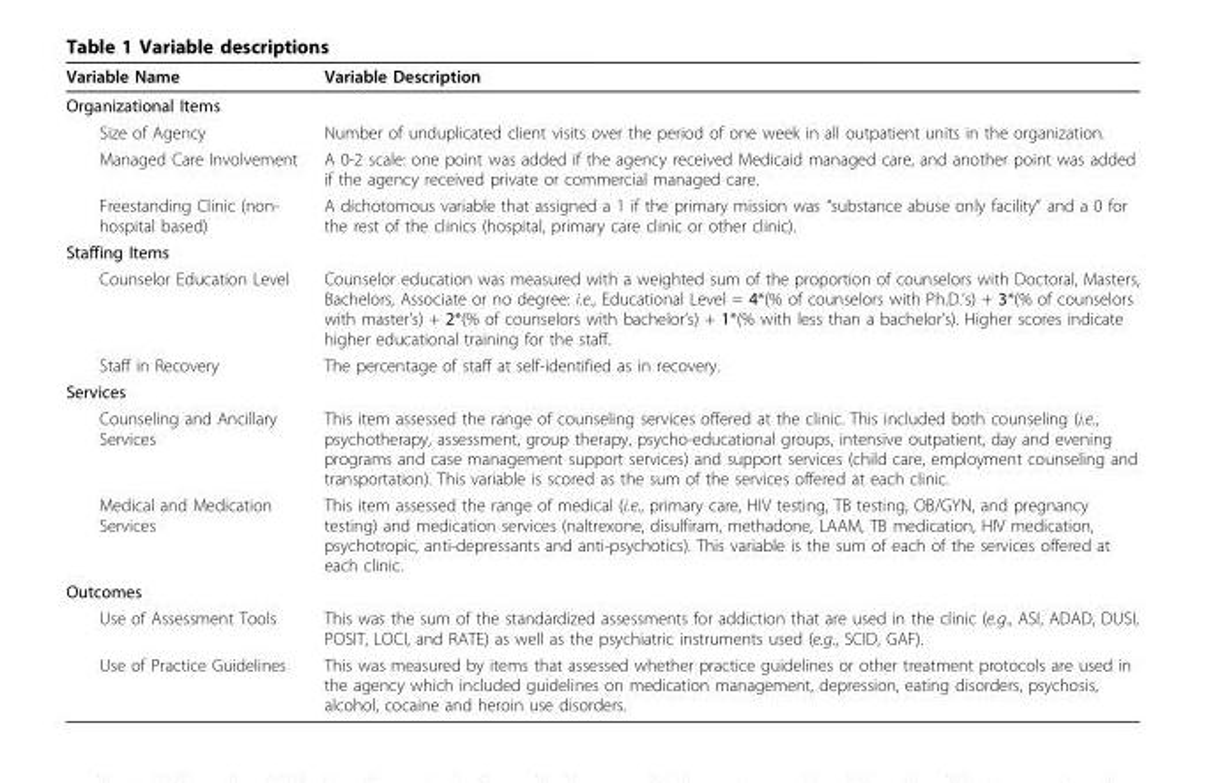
<table><thead><tr><td>Variable Name</td><td>Variable Description</td></tr></thead><tbody><tr><td colspan="2">Organizational Items</td></tr><tr><td>Size of Agency</td><td>Number of unduplicated client visits over the period of one week in all outpatient units in the organization.</td></tr><tr><td>Managed Care Involvement</td><td>A 0-2 scale: one point was added if the agency received Medicaid managed care, and another point was added if the agency received private or commercial managed care.</td></tr><tr><td>Freestanding Clinic (non- hospital based)</td><td>A dichotomous variable that assigned a 1 if the primary mission was “substance abuse only facility” and a 0 for the rest of the clinics (hospital, primary care clinic or other clinic).</td></tr><tr><td colspan="2">Staffing Items</td></tr><tr><td>Counselor Education Level</td><td>Counselor education was measured with a weighted sum of the proportion of counselors with Doctoral, Masters, Bachelors, Associate or no degree: i.e., Educational Level = 4*(% of counselors with Ph.D.’s) + 3*(% of counselors with master’s) + 2*(% of counselors with bachelor’s) + 1*(% with less than a bachelor’s). Higher scores indicate higher educational training for the staff.</td></tr><tr><td>Staff in Recovery</td><td>The percentage of staff at self-identified as in recovery.</td></tr><tr><td colspan="2">Services</td></tr><tr><td>Counseling and Ancillary Services</td><td>This item assessed the range of counseling services offered at the clinic. This included both counseling (i.e., psychotherapy, assessment, group therapy, psycho-educational groups, intensive outpatient, day and evening programs and case management support services) and support services (child care, employment counseling and transportation). This variable is scored as the sum of the services offered at each clinic.</td></tr><tr><td>Medical and Medication Services</td><td>This item assessed the range of medical (i.e., primary care, HIV testing, TB testing, OB/GYN, and pregnancy testing) and medication services (naltrexone, disulfiram, methadone, LAAM, TB medication, HIV medication, psychotropic, anti-depressants and anti-psychotics). This variable is the sum of each of the services offered at each clinic.</td></tr><tr><td colspan="2">Outcomes</td></tr><tr><td>Use of Assessment Tools</td><td>This was the sum of the standardized assessments for addiction that are used in the clinic (e.g., ASI, ADAD, DUSI, POSIT, LOCI, and RATE) as well as the psychiatric instruments used (e.g., SCID, GAF).</td></tr><tr><td>Use of Practice Guidelines</td><td>This was measured by items that assessed whether practice guidelines or other treatment protocols are used in the agency which included guidelines on medication management, depression, eating disorders, psychosis, alcohol, cocaine and heroin use disorders.</td></tr></tbody></table>